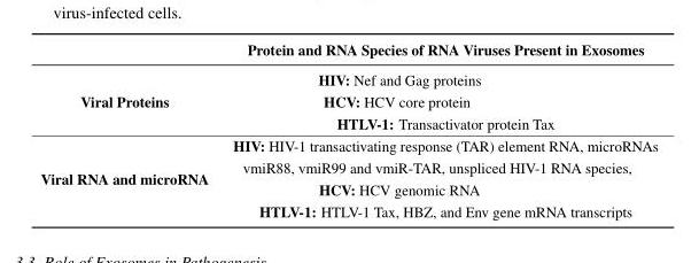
<table><thead><tr><td></td><td>Protein and RNA Species of RNA Viruses Present in Exosomes</td></tr></thead><tbody><tr><td>Viral Proteins</td><td>HIV: Nef and Gag proteins HCV: HCV core protein HTLV-1: Transactivator protein Tax</td></tr><tr><td>Viral RNA and microRNA</td><td>HIV: HIV-1 transactivating response (TAR) element RNA, microRNAs vmiR88, vmiR99 and vmiR-TAR, unspliced HIV-1 RNA species, HCV: HCV genomic RNA HTLV-1: HTLV-1 Tax, HBZ, and Env gene mRNA transcripts</td></tr></tbody></table>